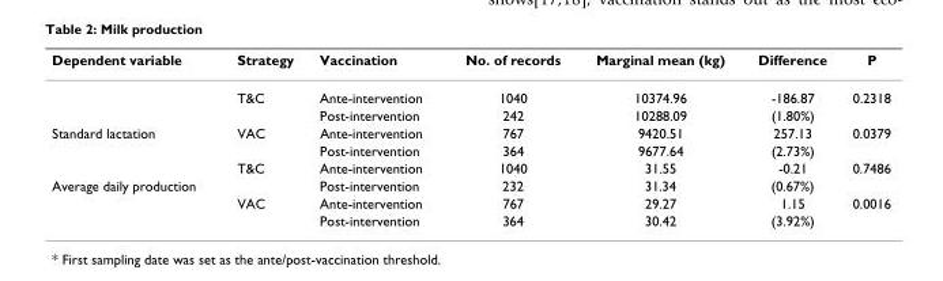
<table><thead><tr><td>Dependent variable</td><td>Strategy</td><td>Vaccination</td><td>No. of records</td><td>Marginal mean (kg)</td><td>Difference</td><td>P</td></tr></thead><tbody><tr><td></td><td>T&amp;C</td><td>Ante-intervention</td><td>1040</td><td>10374.96</td><td>-186.87</td><td>0.2318</td></tr><tr><td></td><td></td><td>Post-intervention</td><td>242</td><td>10288.09</td><td>(1.80%)</td><td></td></tr><tr><td rowspan="3">Standard lactation</td><td>VAC</td><td>Ante-intervention</td><td>767</td><td>9420.51</td><td>257.13</td><td>0.0379</td></tr><tr><td></td><td>Post-intervention</td><td>364</td><td>9677.64</td><td>(2.73%)</td><td></td></tr><tr><td>T&amp;C</td><td>Ante-intervention</td><td>1040</td><td>31.55</td><td>-0.21</td><td>0.7486</td></tr><tr><td rowspan="3">Average daily production</td><td></td><td>Post-intervention</td><td>232</td><td>31.34</td><td>(0.67%)</td><td></td></tr><tr><td>VAC</td><td>Ante-intervention</td><td>767</td><td>29.27</td><td>1.15</td><td>0.0016</td></tr><tr><td></td><td>Post-intervention</td><td>364</td><td>30.42</td><td>(3.92%)</td><td></td></tr></tbody></table>